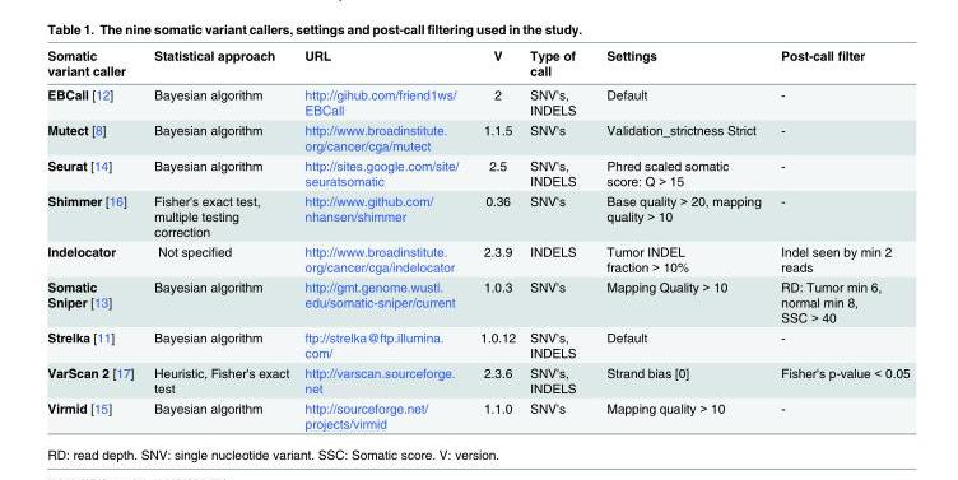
<table><thead><tr><td>Somatic variant caller</td><td>Statistical approach</td><td>URL</td><td>V</td><td>Type of call</td><td>Settings</td><td>Post-call filter</td></tr></thead><tbody><tr><td>EBCall [12]</td><td>Bayesian algorithm</td><td>http://gihub.com/friend1ws/ EBCall</td><td>2</td><td>SNV&#x27;s, INDELS</td><td>Default</td><td>-</td></tr><tr><td>Mutect [8]</td><td>Bayesian algorithm</td><td>http://www.broadinstitute. org/cancer/cga/mutect</td><td>1.1.5</td><td>SNV&#x27;s</td><td>Validation_strictness Strict</td><td>-</td></tr><tr><td>Seurat [14]</td><td>Bayesian algorithm</td><td>http://sites.google.com/site/ seuratsomatic</td><td>2.5</td><td>SNV&#x27;s, INDELS</td><td>Phred scaled somatic score: Q &gt; 15</td><td>-</td></tr><tr><td>Shimmer [16]</td><td>Fisher&#x27;s exact test, multiple testing correction</td><td>http://www.github.com/ nhansen/shimmer</td><td>0.36</td><td>SNV&#x27;s</td><td>Base quality &gt; 20, mapping quality &gt; 10</td><td>-</td></tr><tr><td>Indelocator</td><td>Not specified</td><td>http://www.broadinstitute. org/cancer/cga/indelocator</td><td>2.3.9</td><td>INDELS</td><td>Tumor INDEL fraction &gt; 10%</td><td>Indel seen by min 2 reads</td></tr><tr><td>Somatic Sniper [13]</td><td>Bayesian algorithm</td><td>http://gmt.genome.wustl. edu/somatic-sniper/current</td><td>1.0.3</td><td>SNV&#x27;s</td><td>Mapping Quality &gt; 10</td><td>RD: Tumor min 6, normal min 8, SSC &gt; 40</td></tr><tr><td>Strelka [11]</td><td>Bayesian algorithm</td><td>ftp://strelka@ftp.illumina. com/</td><td>1.0.12</td><td>SNV&#x27;s, INDELS</td><td>Default</td><td>-</td></tr><tr><td>VarScan 2 [17]</td><td>Heuristic, Fisher&#x27;s exact test</td><td>http://varscan.sourceforge. net</td><td>2.3.6</td><td>SNV&#x27;s, INDELS</td><td>Strand bias [0]</td><td>Fisher&#x27;s p-value &lt; 0.05</td></tr><tr><td>Virmid [15]</td><td>Bayesian algorithm</td><td>http://sourceforge.net/ projects/virmid</td><td>1.1.0</td><td>SNV&#x27;s</td><td>Mapping quality &gt; 10</td><td>-</td></tr></tbody></table>